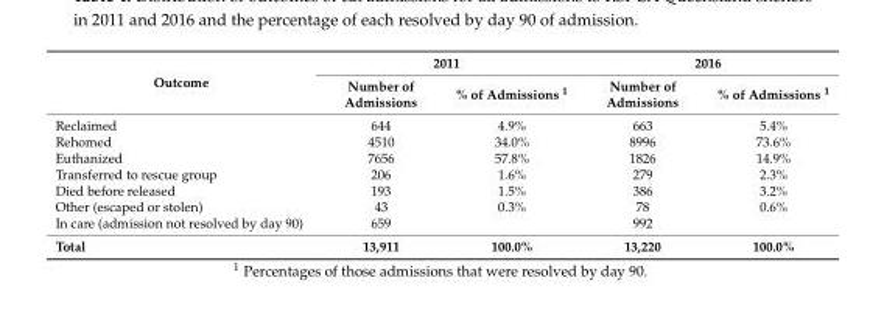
<table><thead><tr><td rowspan="2">Outcome</td><td colspan="2">2011</td><td colspan="2">2016</td></tr><tr><td>Number of Admissions</td><td>% of Admissions <sup>1</sup></td><td>Number of Admissions</td><td>% of Admissions <sup>1</sup></td></tr></thead><tbody><tr><td>Reclaimed</td><td>644</td><td>4.9%</td><td>663</td><td>5.4%</td></tr><tr><td>Rehomed</td><td>4510</td><td>34.0%</td><td>8996</td><td>73.6%</td></tr><tr><td>Euthanized</td><td>7656</td><td>57.8%</td><td>1826</td><td>14.9%</td></tr><tr><td>Transferred to rescue group</td><td>206</td><td>1.6%</td><td>279</td><td>2.3%</td></tr><tr><td>Died before released</td><td>193</td><td>1.5%</td><td>386</td><td>3.2%</td></tr><tr><td>Other (escaped or stolen)</td><td>43</td><td>0.3%</td><td>78</td><td>0.6%</td></tr><tr><td>In care (admission not resolved by day 90)</td><td>659</td><td></td><td>992</td><td></td></tr><tr><td>Total</td><td>13,911</td><td>100.0%</td><td>13,220</td><td>100.0%</td></tr></tbody></table>